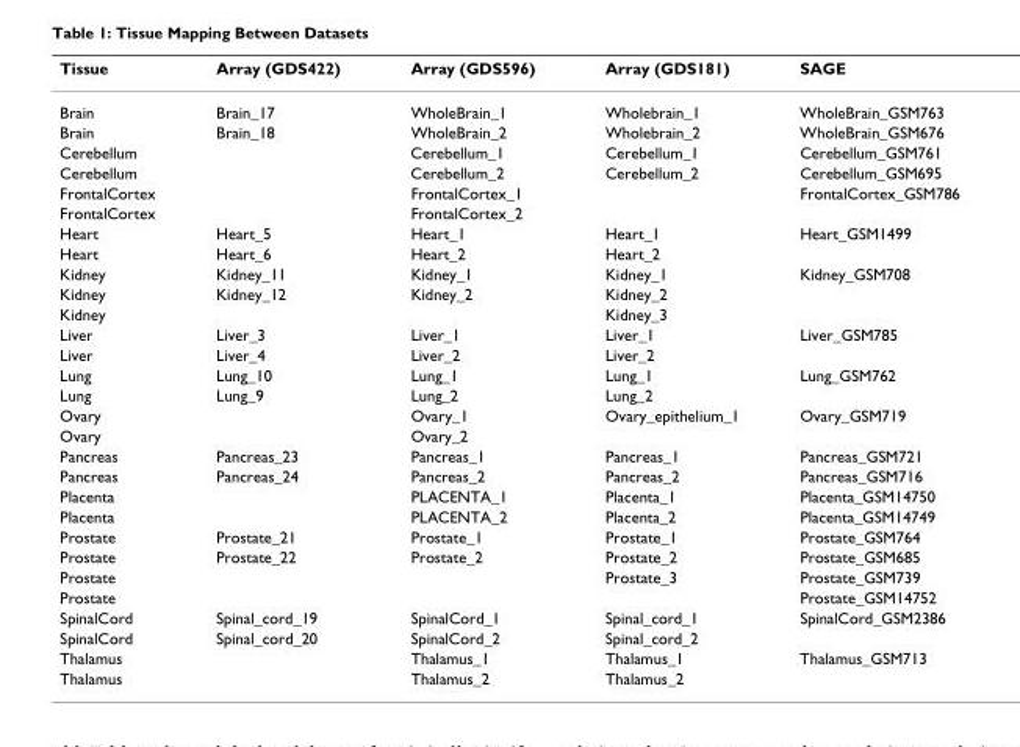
<table><thead><tr><td>Tissue</td><td>Array (GDS422)</td><td>Array (GDS596)</td><td>Array (GDS181)</td><td>SAGE</td></tr></thead><tbody><tr><td>Brain</td><td>Brain_17</td><td>WholeBrain_1</td><td>Wholebrain_1</td><td>WholeBrain_GSM763</td></tr><tr><td>Brain</td><td>Brain_18</td><td>WholeBrain_2</td><td>Wholebrain_2</td><td>WholeBrain_GSM676</td></tr><tr><td>Cerebellum</td><td></td><td>Cerebellum_1</td><td>Cerebellum_1</td><td>Cerebellum_GSM761</td></tr><tr><td>Cerebellum</td><td></td><td>Cerebellum_2</td><td>Cerebellum_2</td><td>Cerebellum_GSM695</td></tr><tr><td>FrontalCortex</td><td></td><td>FrontalCortex_1</td><td></td><td>FrontalCortex_GSM786</td></tr><tr><td>FrontalCortex</td><td></td><td>FrontalCortex_2</td><td></td><td></td></tr><tr><td>Heart</td><td>Heart_5</td><td>Heart_1</td><td>Heart_1</td><td>Heart_GSM1499</td></tr><tr><td>Heart</td><td>Heart_6</td><td>Heart_2</td><td>Heart_2</td><td></td></tr><tr><td>Kidney</td><td>Kidney_11</td><td>Kidney_1</td><td>Kidney_1</td><td>Kidney_GSM708</td></tr><tr><td>Kidney</td><td>Kidney_12</td><td>Kidney_2</td><td>Kidney_2</td><td></td></tr><tr><td>Kidney</td><td></td><td></td><td>Kidney_3</td><td></td></tr><tr><td>Liver</td><td>Liver_3</td><td>Liver_1</td><td>Liver_1</td><td>Liver_GSM785</td></tr><tr><td>Liver</td><td>Liver_4</td><td>Liver_2</td><td>Liver_2</td><td></td></tr><tr><td>Lung</td><td>Lung_10</td><td>Lung_1</td><td>Lung_1</td><td>Lung_GSM762</td></tr><tr><td>Lung</td><td>Lung_9</td><td>Lung_2</td><td>Lung_2</td><td></td></tr><tr><td>Ovary</td><td></td><td>Ovary_1</td><td>Ovary_epithelium_1</td><td>Ovary_GSM719</td></tr><tr><td>Ovary</td><td></td><td>Ovary_2</td><td></td><td></td></tr><tr><td>Pancreas</td><td>Pancreas_23</td><td>Pancreas_1</td><td>Pancreas_1</td><td>Pancreas_GSM721</td></tr><tr><td>Pancreas</td><td>Pancreas_24</td><td>Pancreas_2</td><td>Pancreas_2</td><td>Pancreas_GSM716</td></tr><tr><td>Placenta</td><td></td><td>PLACENTA_1</td><td>Placenta_1</td><td>Placenta_GSM14750</td></tr><tr><td>Placenta</td><td></td><td>PLACENTA_2</td><td>Placenta_2</td><td>Placenta_GSM14749</td></tr><tr><td>Prostate</td><td>Prostate_21</td><td>Prostate_1</td><td>Prostate_1</td><td>Prostate_GSM764</td></tr><tr><td>Prostate</td><td>Prostate_22</td><td>Prostate_2</td><td>Prostate_2</td><td>Prostate_GSM685</td></tr><tr><td>Prostate</td><td></td><td></td><td>Prostate_3</td><td>Prostate_GSM739</td></tr><tr><td>Prostate</td><td></td><td></td><td></td><td>Prostate_GSM14752</td></tr><tr><td>SpinalCord</td><td>Spinal_cord_19</td><td>SpinalCord_1</td><td>Spinal_cord_1</td><td>SpinalCord_GSM2386</td></tr><tr><td>SpinalCord</td><td>Spinal_cord_20</td><td>SpinalCord_2</td><td>Spinal_cord_2</td><td></td></tr><tr><td>Thalamus</td><td></td><td>Thalamus_1</td><td>Thalamus_1</td><td>Thalamus_GSM713</td></tr><tr><td>Thalamus</td><td></td><td>Thalamus_2</td><td>Thalamus_2</td><td></td></tr></tbody></table>